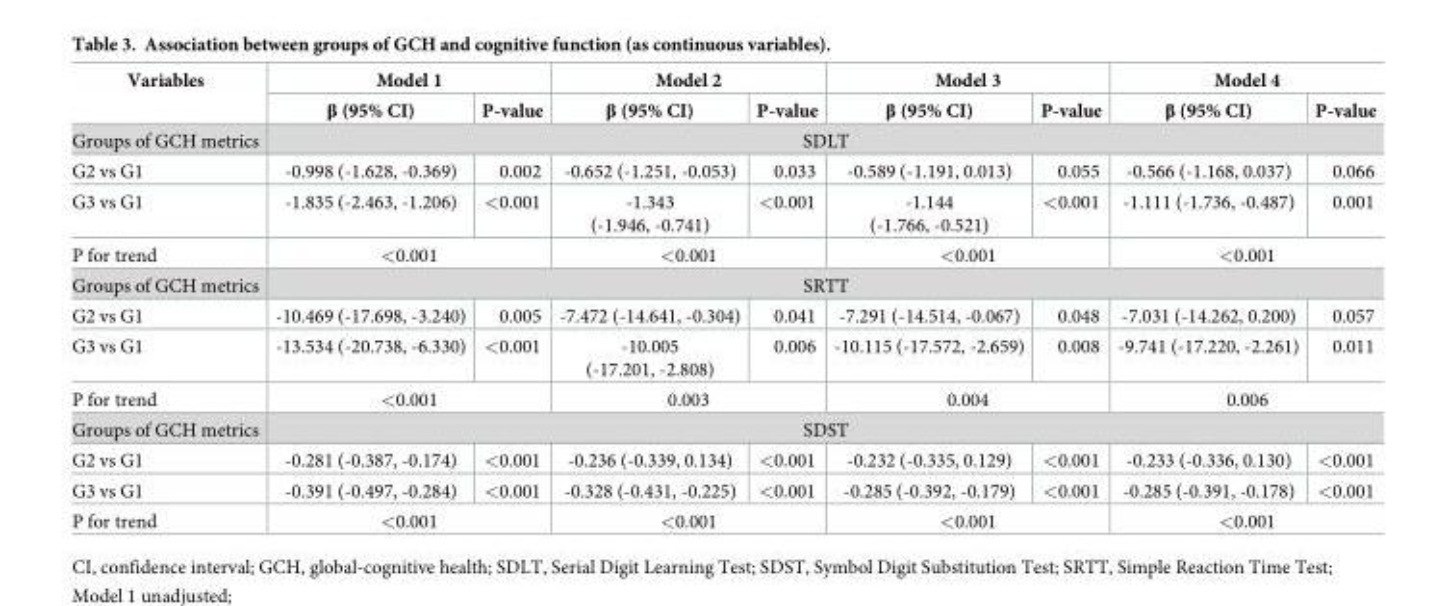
<table><thead><tr><td rowspan="2">Variables</td><td colspan="2">Model 1</td><td colspan="2">Model 2</td><td colspan="2">Model 3</td><td colspan="2">Model 4</td></tr><tr><td>β (95% CI)</td><td>P-value</td><td>β (95% CI)</td><td>P-value</td><td>β (95% CI)</td><td>P-value</td><td>β (95% CI)</td><td>P-value</td></tr></thead><tbody><tr><td>Groups of GCH metrics</td><td colspan="8">SDLT</td></tr><tr><td>G2 vs G1</td><td>-0.998 (-1.628, -0.369)</td><td>0.002</td><td>-0.652 (-1.251, -0.053)</td><td>0.033</td><td>-0.589 (-1.191, 0.013)</td><td>0.055</td><td>-0.566 (-1.168, 0.037)</td><td>0.066</td></tr><tr><td>G3 vs G1</td><td>-1.835 (-2.463, -1.206)</td><td>&lt;0.001</td><td>-1.343 (-1.946, -0.741)</td><td>&lt;0.001</td><td>-1.144 (-1.766, -0.521)</td><td>&lt;0.001</td><td>-1.111 (-1.736, -0.487)</td><td>0.001</td></tr><tr><td>P for trend</td><td colspan="2">&lt;0.001</td><td colspan="2">&lt;0.001</td><td colspan="2">&lt;0.001</td><td colspan="2">&lt;0.001</td></tr><tr><td>Groups of GCH metrics</td><td colspan="8">SRTT</td></tr><tr><td>G2 vs G1</td><td>-10.469 (-17.698, -3.240)</td><td>0.005</td><td>-7.472 (-14.641, -0.304)</td><td>0.041</td><td>-7.291 (-14.514, -0.067)</td><td>0.048</td><td>-7.031 (-14.262, 0.200)</td><td>0.057</td></tr><tr><td>G3 vs G1</td><td>-13.534 (-20.738, -6.330)</td><td>&lt;0.001</td><td>-10.005 (-17.201, -2.808)</td><td>0.006</td><td>-10.115 (-17.572, -2.659)</td><td>0.008</td><td>-9.741 (-17.220, -2.261)</td><td>0.011</td></tr><tr><td>P for trend</td><td colspan="2">&lt;0.001</td><td colspan="2">0.003</td><td colspan="2">0.004</td><td colspan="2">0.006</td></tr><tr><td>Groups of GCH metrics</td><td colspan="8">SDST</td></tr><tr><td>G2 vs G1</td><td>-0.281 (-0.387, -0.174)</td><td>&lt;0.001</td><td>-0.236 (-0.339, 0.134)</td><td>&lt;0.001</td><td>-0.232 (-0.335, 0.129)</td><td>&lt;0.001</td><td>-0.233 (-0.336, 0.130)</td><td>&lt;0.001</td></tr><tr><td>G3 vs G1</td><td>-0.391 (-0.497, -0.284)</td><td>&lt;0.001</td><td>-0.328 (-0.431, -0.225)</td><td>&lt;0.001</td><td>-0.285 (-0.392, -0.179)</td><td>&lt;0.001</td><td>-0.285 (-0.391, -0.178)</td><td>&lt;0.001</td></tr><tr><td>P for trend</td><td colspan="2">&lt;0.001</td><td colspan="2">&lt;0.001</td><td colspan="2">&lt;0.001</td><td colspan="2">&lt;0.001</td></tr></tbody></table>